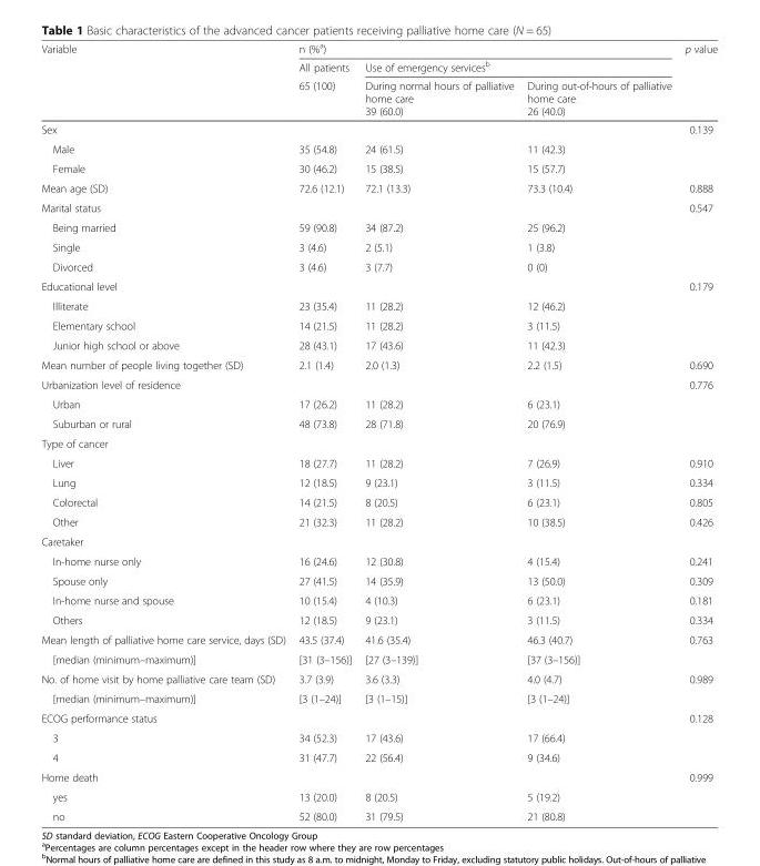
<table><thead><tr><td rowspan="3">Variable</td><td colspan="3">n (%<sup>a</sup>)</td><td rowspan="3">p value</td></tr><tr><td rowspan="2">All patients 65 (100)</td><td colspan="2">Use of emergency services<sup>b</sup></td></tr><tr><td>During normal hours of palliative home care 39 (60.0)</td><td>During out-of-hours of palliative home care 26 (40.0)</td></tr></thead><tbody><tr><td>Sex</td><td></td><td></td><td></td><td>0.139</td></tr><tr><td>Male</td><td>35 (54.8)</td><td>24 (61.5)</td><td>11 (42.3)</td><td></td></tr><tr><td>Female</td><td>30 (46.2)</td><td>15 (38.5)</td><td>15 (57.7)</td><td></td></tr><tr><td>Mean age (SD)</td><td>72.6 (12.1)</td><td>72.1 (13.3)</td><td>73.3 (10.4)</td><td>0.888</td></tr><tr><td>Marital status</td><td></td><td></td><td></td><td>0.547</td></tr><tr><td>Being married</td><td>59 (90.8)</td><td>34 (87.2)</td><td>25 (96.2)</td><td></td></tr><tr><td>Single</td><td>3 (4.6)</td><td>2 (5.1)</td><td>1 (3.8)</td><td></td></tr><tr><td>Divorced</td><td>3 (4.6)</td><td>3 (7.7)</td><td>0 (0)</td><td></td></tr><tr><td>Educational level</td><td></td><td></td><td></td><td>0.179</td></tr><tr><td>Illiterate</td><td>23 (35.4)</td><td>11 (28.2)</td><td>12 (46.2)</td><td></td></tr><tr><td>Elementary school</td><td>14 (21.5)</td><td>11 (28.2)</td><td>3 (11.5)</td><td></td></tr><tr><td>Junior high school or above</td><td>28 (43.1)</td><td>17 (43.6)</td><td>11 (42.3)</td><td></td></tr><tr><td>Mean number of people living together (SD)</td><td>2.1 (1.4)</td><td>2.0 (1.3)</td><td>2.2 (1.5)</td><td>0.690</td></tr><tr><td>Urbanization level of residence</td><td></td><td></td><td></td><td>0.776</td></tr><tr><td>Urban</td><td>17 (26.2)</td><td>11 (28.2)</td><td>6 (23.1)</td><td></td></tr><tr><td>Suburban or rural</td><td>48 (73.8)</td><td>28 (71.8)</td><td>20 (76.9)</td><td></td></tr><tr><td colspan="5">Type of cancer</td></tr><tr><td>Liver</td><td>18 (27.7)</td><td>11 (28.2)</td><td>7 (26.9)</td><td>0.910</td></tr><tr><td>Lung</td><td>12 (18.5)</td><td>9 (23.1)</td><td>3 (11.5)</td><td>0.334</td></tr><tr><td>Colorectal</td><td>14 (21.5)</td><td>8 (20.5)</td><td>6 (23.1)</td><td>0.805</td></tr><tr><td>Other</td><td>21 (32.3)</td><td>11 (28.2)</td><td>10 (38.5)</td><td>0.426</td></tr><tr><td colspan="5">Caretaker</td></tr><tr><td>In-home nurse only</td><td>16 (24.6)</td><td>12 (30.8)</td><td>4 (15.4)</td><td>0.241</td></tr><tr><td>Spouse only</td><td>27 (41.5)</td><td>14 (35.9)</td><td>13 (50.0)</td><td>0.309</td></tr><tr><td>In-home nurse and spouse</td><td>10 (15.4)</td><td>4 (10.3)</td><td>6 (23.1)</td><td>0.181</td></tr><tr><td>Others</td><td>12 (18.5)</td><td>9 (23.1)</td><td>3 (11.5)</td><td>0.334</td></tr><tr><td>Mean length of palliative home care service, days (SD)</td><td>43.5 (37.4)</td><td>41.6 (35.4)</td><td>46.3 (40.7)</td><td>0.763</td></tr><tr><td>[median (minimum–maximum)]</td><td>[31 (3–156)]</td><td>[27 (3–139)]</td><td>[37 (3–156)]</td><td></td></tr><tr><td>No. of home visit by home palliative care team (SD)</td><td>3.7 (3.9)</td><td>3.6 (3.3)</td><td>4.0 (4.7)</td><td>0.989</td></tr><tr><td>[median (minimum–maximum)]</td><td>[3 (1–24)]</td><td>[3 (1–15)]</td><td>[3 (1–24)]</td><td></td></tr><tr><td>ECOG performance status</td><td></td><td></td><td></td><td>0.128</td></tr><tr><td>3</td><td>34 (52.3)</td><td>17 (43.6)</td><td>17 (66.4)</td><td></td></tr><tr><td>4</td><td>31 (47.7)</td><td>22 (56.4)</td><td>9 (34.6)</td><td></td></tr><tr><td>Home death</td><td></td><td></td><td></td><td>0.999</td></tr><tr><td>yes</td><td>13 (20.0)</td><td>8 (20.5)</td><td>5 (19.2)</td><td></td></tr><tr><td>no</td><td>52 (80.0)</td><td>31 (79.5)</td><td>21 (80.8)</td><td></td></tr></tbody></table>